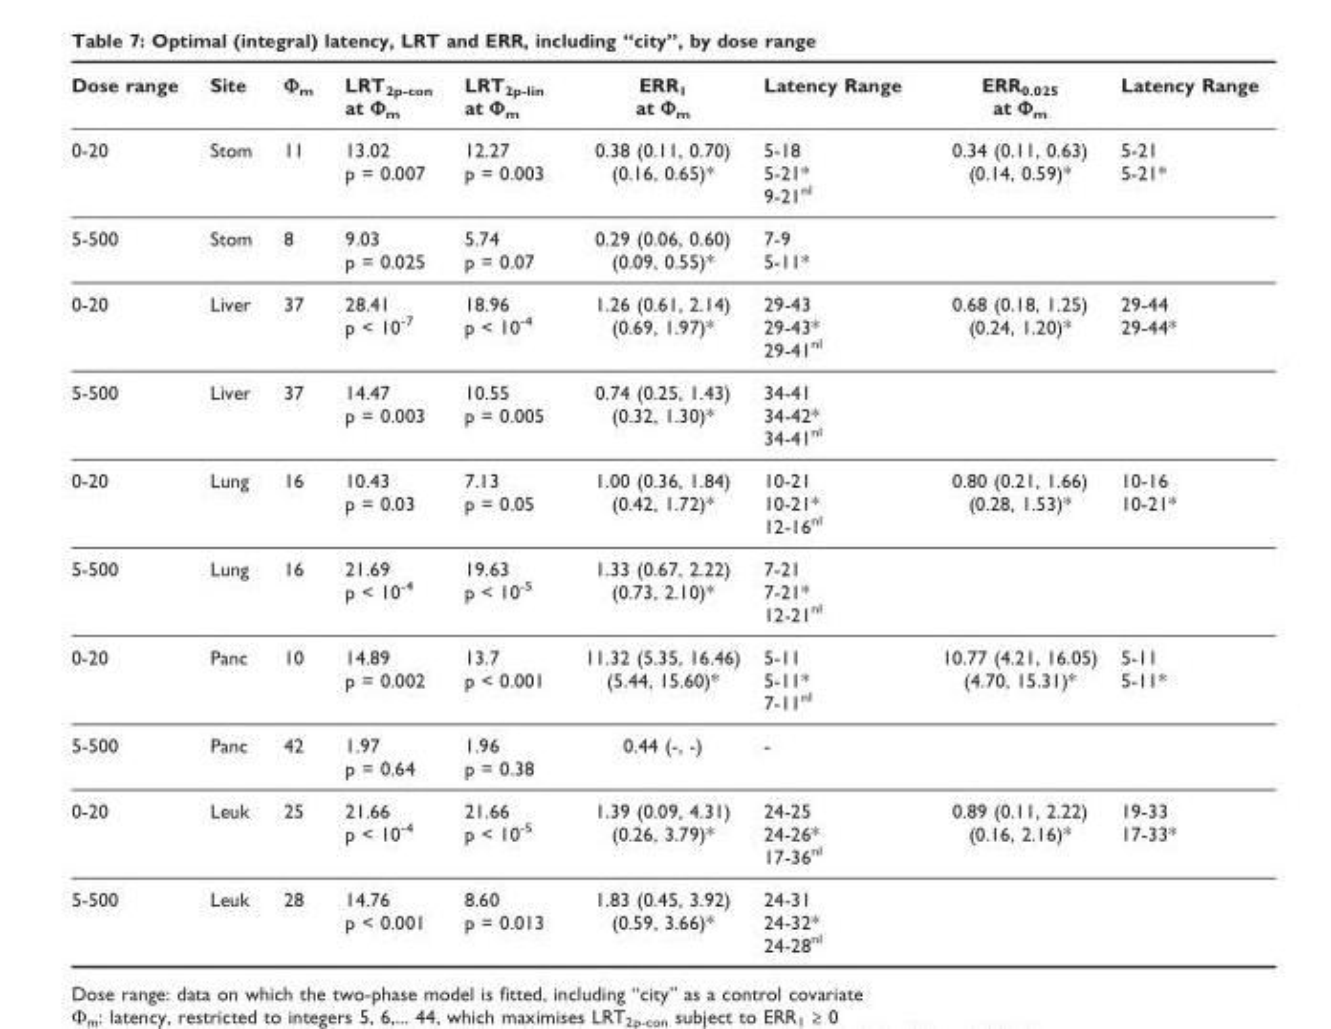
<table><thead><tr><td>Dose range</td><td>Site</td><td>Φm</td><td>LRT2p-con at Φm</td><td>LRT2p-lin at Φm</td><td>ERR1 at Φm</td><td>Latency Range</td><td>ERR0.025 at Φm</td><td>Latency Range</td></tr></thead><tbody><tr><td>0-20</td><td>Stom</td><td>11</td><td>13.02 p = 0.007</td><td>12.27 p = 0.003</td><td>0.38 (0.11, 0.70) (0.16, 0.65)*</td><td>5-18 5-21* 9-21nl</td><td>0.34 (0.11, 0.63) (0.14, 0.59)*</td><td>5-21 5-21*</td></tr><tr><td>5-500</td><td>Stom</td><td>8</td><td>9.03 p = 0.025</td><td>5.74 p = 0.07</td><td>0.29 (0.06, 0.60) (0.09, 0.55)*</td><td>7-9 5-11*</td><td></td><td></td></tr><tr><td>0-20</td><td>Liver</td><td>37</td><td>28.41 p &lt; 10-7</td><td>18.96 p &lt; 10-4</td><td>1.26 (0.61, 2.14) (0.69, 1.97)*</td><td>29-43 29-43* 29-41nl</td><td>0.68 (0.18, 1.25) (0.24, 1.20)*</td><td>29-44 29-44*</td></tr><tr><td>5-500</td><td>Liver</td><td>37</td><td>14.47 p = 0.003</td><td>10.55 p = 0.005</td><td>0.74 (0.25, 1.43) (0.32, 1.30)*</td><td>34-41 34-42* 34-41nl</td><td></td><td></td></tr><tr><td>0-20</td><td>Lung</td><td>16</td><td>10.43 p = 0.03</td><td>7.13 p = 0.05</td><td>1.00 (0.36, 1.84) (0.42, 1.72)*</td><td>10-21 10-21* 12-16nl</td><td>0.80 (0.21, 1.66) (0.28, 1.53)*</td><td>10-16 10-21*</td></tr><tr><td>5-500</td><td>Lung</td><td>16</td><td>21.69 p &lt; 10-4</td><td>19.63 p &lt; 10-5</td><td>1.33 (0.67, 2.22) (0.73, 2.10)*</td><td>7-21 7-21* 12-21nl</td><td></td><td></td></tr><tr><td>0-20</td><td>Panc</td><td>10</td><td>14.89 p = 0.002</td><td>13.7 p &lt; 0.001</td><td>11.32 (5.35, 16.46) (5.44, 15.60)*</td><td>5-11 5-11* 7-11nl</td><td>10.77 (4.21, 16.05) (4.70, 15.31)*</td><td>5-11 5-11*</td></tr><tr><td>5-500</td><td>Panc</td><td>42</td><td>1.97 p = 0.64</td><td>1.96 p = 0.38</td><td>0.44 (-, -)</td><td>-</td><td></td><td></td></tr><tr><td>0-20</td><td>Leuk</td><td>25</td><td>21.66 p &lt; 10-4</td><td>21.66 p &lt; 10-5</td><td>1.39 (0.09, 4.31) (0.26, 3.79)*</td><td>24-25 24-26* 17-36nl</td><td>0.89 (0.11, 2.22) (0.16, 2.16)*</td><td>19-33 17-33*</td></tr><tr><td>5-500</td><td>Leuk</td><td>28</td><td>14.76 p &lt; 0.001</td><td>8.60 p = 0.013</td><td>1.83 (0.45, 3.92) (0.59, 3.66)*</td><td>24-31 24-32* 24-28nl</td><td></td><td></td></tr></tbody></table>